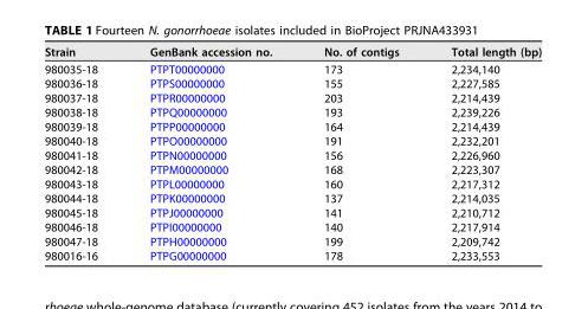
<table><thead><tr><td>Strain</td><td>GenBank accession no.</td><td>No. of contigs</td><td>Total length (bp)</td></tr></thead><tbody><tr><td>980035-18</td><td>PTPT00000000</td><td>173</td><td>2,234,140</td></tr><tr><td>980036-18</td><td>PTPS00000000</td><td>155</td><td>2,227,585</td></tr><tr><td>980037-18</td><td>PTPR00000000</td><td>203</td><td>2,214,439</td></tr><tr><td>980038-18</td><td>PTPQ00000000</td><td>193</td><td>2,239,226</td></tr><tr><td>980039-18</td><td>PTPP00000000</td><td>164</td><td>2,214,439</td></tr><tr><td>980040-18</td><td>PTPO00000000</td><td>191</td><td>2,232,201</td></tr><tr><td>980041-18</td><td>PTPN00000000</td><td>156</td><td>2,226,960</td></tr><tr><td>980042-18</td><td>PTPM00000000</td><td>168</td><td>2,223,307</td></tr><tr><td>980043-18</td><td>PTPL00000000</td><td>160</td><td>2,217,312</td></tr><tr><td>980044-18</td><td>PTPK00000000</td><td>137</td><td>2,214,035</td></tr><tr><td>980045-18</td><td>PTPJ00000000</td><td>141</td><td>2,210,712</td></tr><tr><td>980046-18</td><td>PTPI00000000</td><td>140</td><td>2,217,914</td></tr><tr><td>980047-18</td><td>PTPH00000000</td><td>199</td><td>2,209,742</td></tr><tr><td>980016-16</td><td>PTPG00000000</td><td>178</td><td>2,233,553</td></tr></tbody></table>